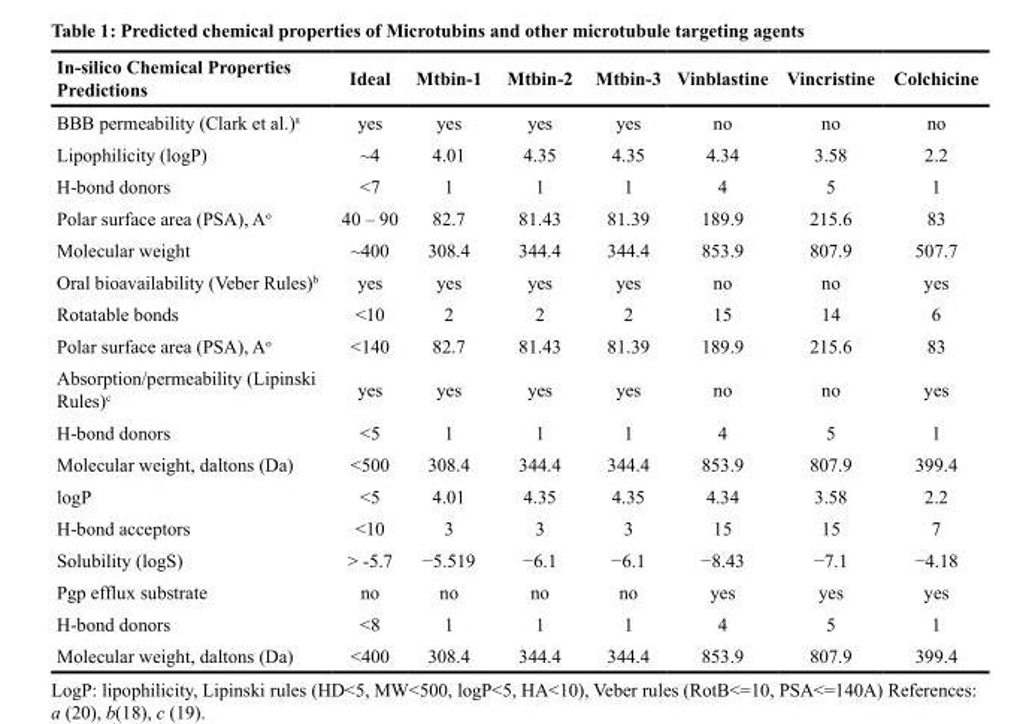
<table><thead><tr><td>In-silico Chemical Properties Predictions</td><td>Ideal</td><td>Mtbin-1</td><td>Mtbin-2</td><td>Mtbin-3</td><td>Vinblastine</td><td>Vincristine</td><td>Colchicine</td></tr></thead><tbody><tr><td>BBB permeability (Clark et al.)<sup>a</sup></td><td>yes</td><td>yes</td><td>yes</td><td>yes</td><td>no</td><td>no</td><td>no</td></tr><tr><td>Lipophilicity (logP)</td><td>~4</td><td>4.01</td><td>4.35</td><td>4.35</td><td>4.34</td><td>3.58</td><td>2.2</td></tr><tr><td>H-bond donors</td><td>&lt;7</td><td>1</td><td>1</td><td>1</td><td>4</td><td>5</td><td>1</td></tr><tr><td>Polar surface area (PSA), A<sup>o</sup></td><td>40 – 90</td><td>82.7</td><td>81.43</td><td>81.39</td><td>189.9</td><td>215.6</td><td>83</td></tr><tr><td>Molecular weight</td><td>~400</td><td>308.4</td><td>344.4</td><td>344.4</td><td>853.9</td><td>807.9</td><td>507.7</td></tr><tr><td>Oral bioavailability (Veber Rules)<sup>b</sup></td><td>yes</td><td>yes</td><td>yes</td><td>yes</td><td>no</td><td>no</td><td>yes</td></tr><tr><td>Rotatable bonds</td><td>&lt;10</td><td>2</td><td>2</td><td>2</td><td>15</td><td>14</td><td>6</td></tr><tr><td>Polar surface area (PSA), A<sup>o</sup></td><td>&lt;140</td><td>82.7</td><td>81.43</td><td>81.39</td><td>189.9</td><td>215.6</td><td>83</td></tr><tr><td>Absorption/permeability (Lipinski Rules)<sup>c</sup></td><td>yes</td><td>yes</td><td>yes</td><td>yes</td><td>no</td><td>no</td><td>yes</td></tr><tr><td>H-bond donors</td><td>&lt;5</td><td>1</td><td>1</td><td>1</td><td>4</td><td>5</td><td>1</td></tr><tr><td>Molecular weight, daltons (Da)</td><td>&lt;500</td><td>308.4</td><td>344.4</td><td>344.4</td><td>853.9</td><td>807.9</td><td>399.4</td></tr><tr><td>logP</td><td>&lt;5</td><td>4.01</td><td>4.35</td><td>4.35</td><td>4.34</td><td>3.58</td><td>2.2</td></tr><tr><td>H-bond acceptors</td><td>&lt;10</td><td>3</td><td>3</td><td>3</td><td>15</td><td>15</td><td>7</td></tr><tr><td>Solubility (logS)</td><td>&gt; -5.7</td><td>−5.519</td><td>−6.1</td><td>−6.1</td><td>−8.43</td><td>−7.1</td><td>−4.18</td></tr><tr><td>Pgp efflux substrate</td><td>no</td><td>no</td><td>no</td><td>no</td><td>yes</td><td>yes</td><td>yes</td></tr><tr><td>H-bond donors</td><td>&lt;8</td><td>1</td><td>1</td><td>1</td><td>4</td><td>5</td><td>1</td></tr><tr><td>Molecular weight, daltons (Da)</td><td>&lt;400</td><td>308.4</td><td>344.4</td><td>344.4</td><td>853.9</td><td>807.9</td><td>399.4</td></tr></tbody></table>